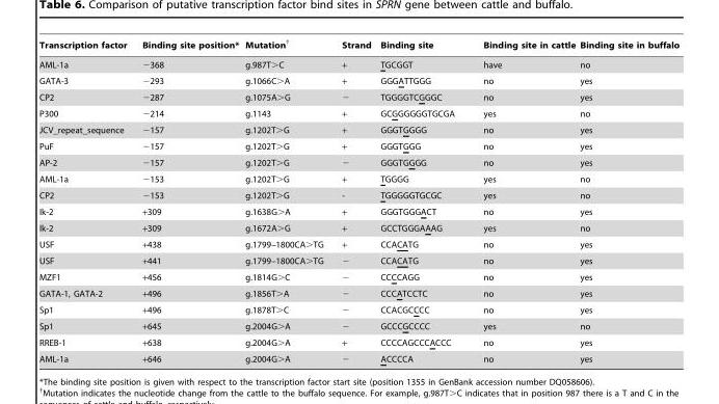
<table><thead><tr><td>Transcription factor</td><td>Binding site position*</td><td>Mutation†</td><td>Strand</td><td>Binding site</td><td>Binding site in cattle</td><td>Binding site in buffalo</td></tr></thead><tbody><tr><td>AML-1a</td><td>−368</td><td>g.987T&gt;C</td><td>+</td><td>TGCGGT</td><td>have</td><td>no</td></tr><tr><td>GATA-3</td><td>−293</td><td>g.1066C&gt;A</td><td>+</td><td>GGGATTGGG</td><td>no</td><td>yes</td></tr><tr><td>CP2</td><td>−287</td><td>g.1075A&gt;G</td><td>−</td><td>TGGGGTCGGGC</td><td>no</td><td>yes</td></tr><tr><td>P300</td><td>−214</td><td>g.1143</td><td>+</td><td>GCGGGGGGTGCGA</td><td>yes</td><td>no</td></tr><tr><td>JCV_repeat_sequence</td><td>−157</td><td>g.1202T&gt;G</td><td>+</td><td>GGGTGGGG</td><td>no</td><td>yes</td></tr><tr><td>PuF</td><td>−157</td><td>g.1202T&gt;G</td><td>+</td><td>GGGTGGG</td><td>no</td><td>yes</td></tr><tr><td>AP-2</td><td>−157</td><td>g.1202T&gt;G</td><td>−</td><td>GGGTGGGG</td><td>no</td><td>yes</td></tr><tr><td>AML-1a</td><td>−153</td><td>g.1202T&gt;G</td><td>+</td><td>TGGGG</td><td>yes</td><td>no</td></tr><tr><td>CP2</td><td>−153</td><td>g.1202T&gt;G</td><td>-</td><td>TGGGGGTGCGC</td><td>yes</td><td>no</td></tr><tr><td>Ik-2</td><td>+309</td><td>g.1638G&gt;A</td><td>+</td><td>GGGTGGGACT</td><td>no</td><td>yes</td></tr><tr><td>Ik-2</td><td>+309</td><td>g.1672A&gt;G</td><td>+</td><td>GCCTGGGAAAG</td><td>yes</td><td>no</td></tr><tr><td>USF</td><td>+438</td><td>g.1799–1800CA&gt;TG</td><td>+</td><td>CCACATG</td><td>no</td><td>yes</td></tr><tr><td>USF</td><td>+441</td><td>g.1799–1800CA&gt;TG</td><td>−</td><td>CCACATG</td><td>no</td><td>yes</td></tr><tr><td>MZF1</td><td>+456</td><td>g.1814G&gt;C</td><td>−</td><td>CCCCAGG</td><td>no</td><td>yes</td></tr><tr><td>GATA-1, GATA-2</td><td>+496</td><td>g.1856T&gt;A</td><td>−</td><td>CCCATCCTC</td><td>no</td><td>yes</td></tr><tr><td>Sp1</td><td>+496</td><td>g.1878T&gt;C</td><td>−</td><td>CCACGCCCC</td><td>no</td><td>yes</td></tr><tr><td>Sp1</td><td>+645</td><td>g.2004G&gt;A</td><td>−</td><td>GCCCGCCCC</td><td>yes</td><td>no</td></tr><tr><td>RREB-1</td><td>+638</td><td>g.2004G&gt;A</td><td>+</td><td>CCCCAGCCCACCC</td><td>no</td><td>yes</td></tr><tr><td>AML-1a</td><td>+646</td><td>g.2004G&gt;A</td><td>−</td><td>ACCCCA</td><td>no</td><td>yes</td></tr></tbody></table>